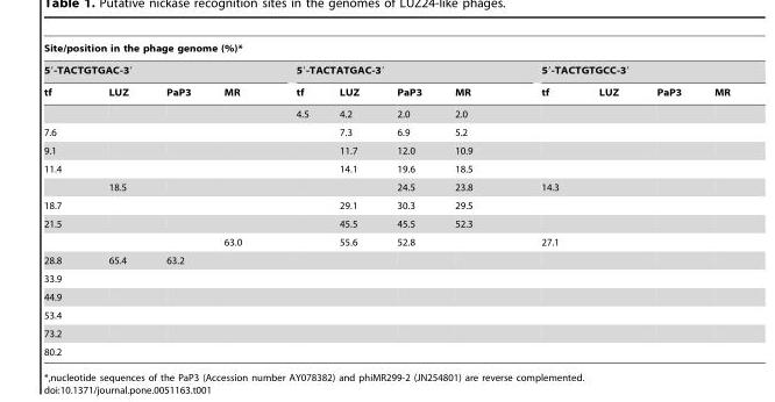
<table><thead><tr><td colspan="12">Site/position in the phage genome (%)*</td></tr><tr><td colspan="4">5′-TACTGTGAC-3′</td><td colspan="4">5′-TACTATGAC-3′</td><td colspan="4">5′-TACTGTGCC-3′</td></tr><tr><td>tf</td><td>LUZ</td><td>PaP3</td><td>MR</td><td>tf</td><td>LUZ</td><td>PaP3</td><td>MR</td><td>tf</td><td>LUZ</td><td>PaP3</td><td>MR</td></tr></thead><tbody><tr><td></td><td></td><td></td><td></td><td>4.5</td><td>4.2</td><td>2.0</td><td>2.0</td><td></td><td></td><td></td><td></td></tr><tr><td>7.6</td><td></td><td></td><td></td><td></td><td>7.3</td><td>6.9</td><td>5.2</td><td></td><td></td><td></td><td></td></tr><tr><td>9.1</td><td></td><td></td><td></td><td></td><td>11.7</td><td>12.0</td><td>10.9</td><td></td><td></td><td></td><td></td></tr><tr><td rowspan="2">11.4</td><td></td><td></td><td></td><td></td><td>14.1</td><td>19.6</td><td>18.5</td><td></td><td></td><td></td><td></td></tr><tr><td>18.5</td><td></td><td></td><td></td><td></td><td>24.5</td><td>23.8</td><td>14.3</td><td></td><td></td><td></td></tr><tr><td>18.7</td><td></td><td></td><td></td><td></td><td>29.1</td><td>30.3</td><td>29.5</td><td></td><td></td><td></td><td></td></tr><tr><td rowspan="2">21.5</td><td></td><td></td><td></td><td></td><td>45.5</td><td>45.5</td><td>52.3</td><td></td><td></td><td></td><td></td></tr><tr><td></td><td></td><td>63.0</td><td></td><td>55.6</td><td>52.8</td><td></td><td>27.1</td><td></td><td></td><td></td></tr><tr><td>28.8</td><td>65.4</td><td>63.2</td><td></td><td></td><td></td><td></td><td></td><td></td><td></td><td></td><td></td></tr><tr><td colspan="12">33.9</td></tr><tr><td colspan="12">44.9</td></tr><tr><td colspan="12">53.4</td></tr><tr><td colspan="12">73.2</td></tr><tr><td>80.2</td><td></td><td></td><td></td><td></td><td></td><td></td><td></td><td></td><td></td><td></td><td></td></tr></tbody></table>